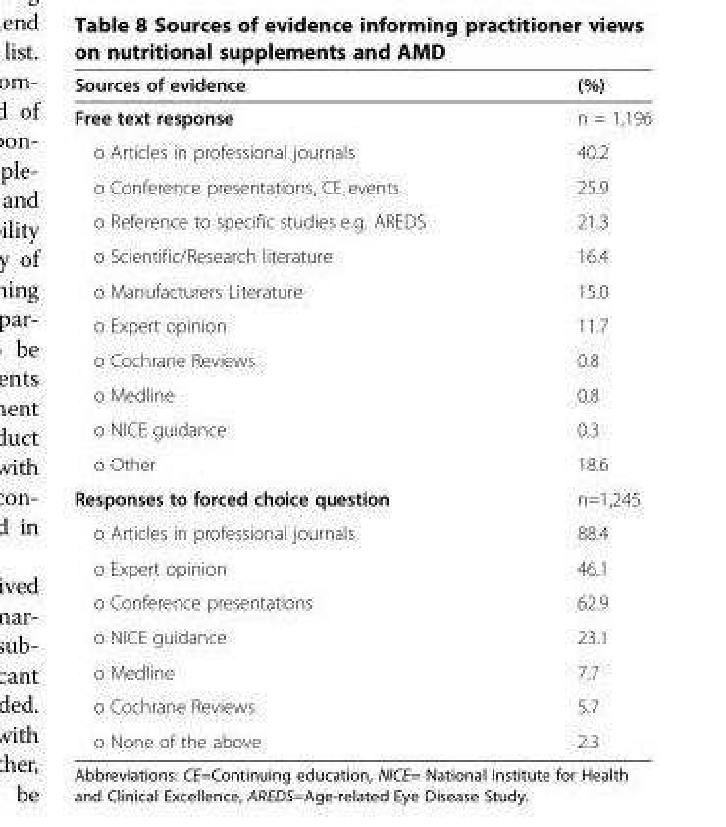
<table><thead><tr><td>Sources of evidence</td><td>(%)</td></tr></thead><tbody><tr><td>Free text response</td><td>n = 1,196</td></tr><tr><td>o Articles in professional journals</td><td>40.2</td></tr><tr><td>o Conference presentations, CE events</td><td>25.9</td></tr><tr><td>o Reference to specific studies e.g. AREDS</td><td>21.3</td></tr><tr><td>o Scientific/Research literature</td><td>16.4</td></tr><tr><td>o Manufacturers Literature</td><td>15.0</td></tr><tr><td>o Expert opinion</td><td>11.7</td></tr><tr><td>o Cochrane Reviews</td><td>0.8</td></tr><tr><td>o Medline</td><td>0.8</td></tr><tr><td>o NICE guidance</td><td>0.3</td></tr><tr><td>o Other</td><td>18.6</td></tr><tr><td>Responses to forced choice question</td><td>n=1,245</td></tr><tr><td>o Articles in professional journals</td><td>88.4</td></tr><tr><td>o Expert opinion</td><td>46.1</td></tr><tr><td>o Conference presentations</td><td>62.9</td></tr><tr><td>o NICE guidance</td><td>23.1</td></tr><tr><td>o Medline</td><td>7.7</td></tr><tr><td>o Cochrane Reviews</td><td>5.7</td></tr><tr><td>o None of the above</td><td>2.3</td></tr></tbody></table>